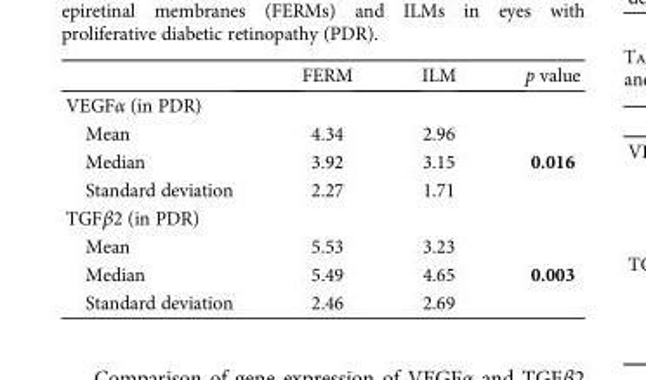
<table><thead><tr><td></td><td>FERM</td><td>ILM</td><td>p value</td></tr></thead><tbody><tr><td colspan="4">VEGFα (in PDR)</td></tr><tr><td>Mean</td><td>4.34</td><td>2.96</td><td rowspan="3">0.016</td></tr><tr><td>Median</td><td>3.92</td><td>3.15</td></tr><tr><td>Standard deviation</td><td>2.27</td><td>1.71</td></tr><tr><td colspan="4">TGFβ2 (in PDR)</td></tr><tr><td>Mean</td><td>5.53</td><td>3.23</td><td rowspan="3">0.003</td></tr><tr><td>Median</td><td>5.49</td><td>4.65</td></tr><tr><td>Standard deviation</td><td>2.46</td><td>2.69</td></tr></tbody></table>